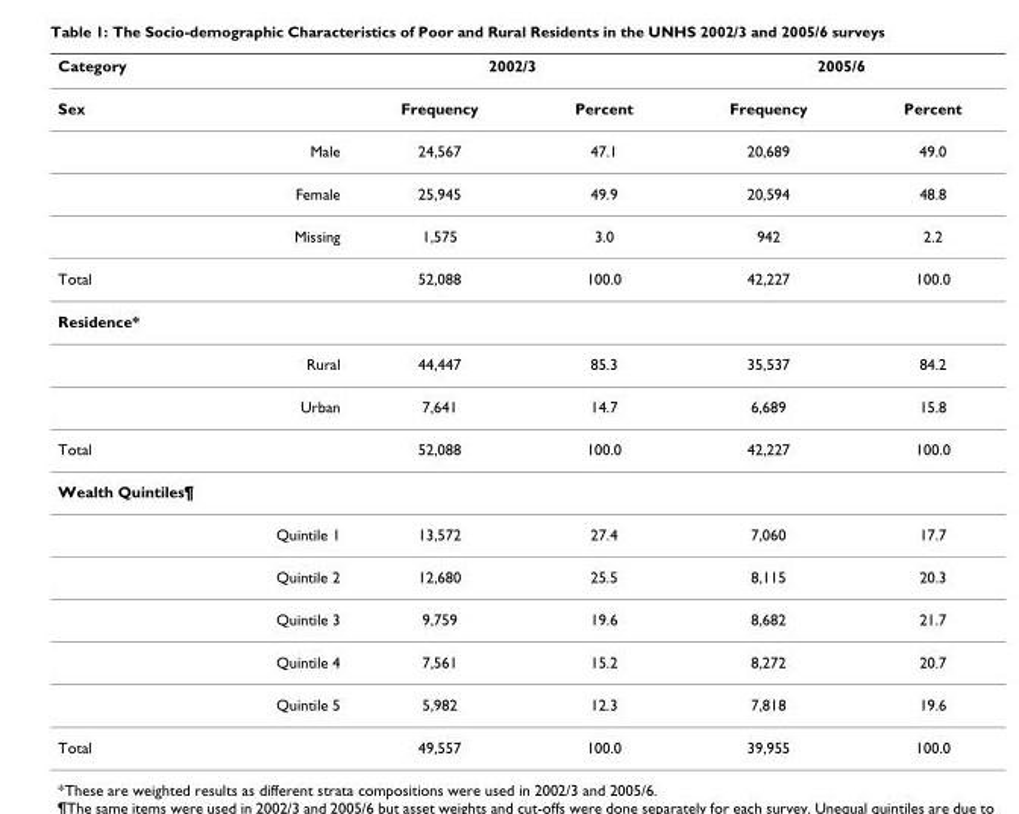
<table><thead><tr><td rowspan="2">Category Sex</td><td colspan="2">2002/3</td><td colspan="2">2005/6</td></tr><tr><td>Frequency</td><td>Percent</td><td>Frequency</td><td>Percent</td></tr></thead><tbody><tr><td>Male</td><td>24,567</td><td>47.1</td><td>20,689</td><td>49.0</td></tr><tr><td>Female</td><td>25,945</td><td>49.9</td><td>20,594</td><td>48.8</td></tr><tr><td>Missing</td><td>1,575</td><td>3.0</td><td>942</td><td>2.2</td></tr><tr><td>Total</td><td>52,088</td><td>100.0</td><td>42,227</td><td>100.0</td></tr><tr><td colspan="5">Residence*</td></tr><tr><td>Rural</td><td>44,447</td><td>85.3</td><td>35,537</td><td>84.2</td></tr><tr><td>Urban</td><td>7,641</td><td>14.7</td><td>6,689</td><td>15.8</td></tr><tr><td>Total</td><td>52,088</td><td>100.0</td><td>42,227</td><td>100.0</td></tr><tr><td colspan="5">Wealth Quintiles¶</td></tr><tr><td>Quintile 1</td><td>13,572</td><td>27.4</td><td>7,060</td><td>17.7</td></tr><tr><td>Quintile 2</td><td>12,680</td><td>25.5</td><td>8,115</td><td>20.3</td></tr><tr><td>Quintile 3</td><td>9,759</td><td>19.6</td><td>8,682</td><td>21.7</td></tr><tr><td>Quintile 4</td><td>7,561</td><td>15.2</td><td>8,272</td><td>20.7</td></tr><tr><td>Quintile 5</td><td>5,982</td><td>12.3</td><td>7,818</td><td>19.6</td></tr><tr><td>Total</td><td>49,557</td><td>100.0</td><td>39,955</td><td>100.0</td></tr></tbody></table>